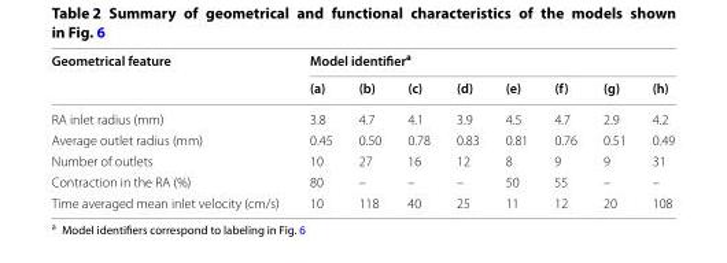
<table><thead><tr><td rowspan="2">Geometrical feature</td><td colspan="8">Model identifier<sup>a</sup></td></tr><tr><td>(a)</td><td>(b)</td><td>(c)</td><td>(d)</td><td>(e)</td><td>(f)</td><td>(g)</td><td>(h)</td></tr></thead><tbody><tr><td>RA inlet radius (mm)</td><td>3.8</td><td>4.7</td><td>4.1</td><td>3.9</td><td>4.5</td><td>4.7</td><td>2.9</td><td>4.2</td></tr><tr><td>Average outlet radius (mm)</td><td>0.45</td><td>0.50</td><td>0.78</td><td>0.83</td><td>0.81</td><td>0.76</td><td>0.51</td><td>0.49</td></tr><tr><td>Number of outlets</td><td>10</td><td>27</td><td>16</td><td>12</td><td>8</td><td>9</td><td>9</td><td>31</td></tr><tr><td>Contraction in the RA (%)</td><td>80</td><td>–</td><td>–</td><td>–</td><td>50</td><td>55</td><td>–</td><td>–</td></tr><tr><td>Time averaged mean inlet velocity (cm/s)</td><td>10</td><td>118</td><td>40</td><td>25</td><td>11</td><td>12</td><td>20</td><td>108</td></tr></tbody></table>